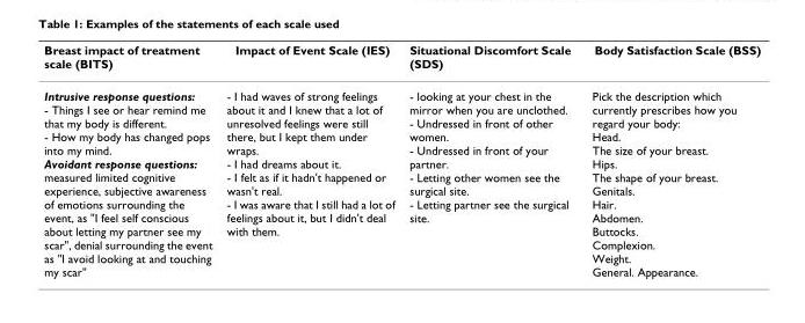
<table><thead><tr><td>Breast impact of treatment scale (BITS)</td><td>Impact of Event Scale (IES)</td><td>Situational Discomfort Scale (SDS)</td><td>Body Satisfaction Scale (BSS)</td></tr></thead><tbody><tr><td>Intrusive response questions: - Things I see or hear remind me that my body is different. - How my body has changed pops into my mind. Avoidant response questions: measured limited cognitive experience, subjective awareness of emotions surrounding the event, as &quot;I feel self conscious about letting my partner see my scar&quot;, denial surrounding the event as &quot;I avoid looking at and touching my scar&quot;</td><td>- I had waves of strong feelings about it and I knew that a lot of unresolved feelings were still there, but I kept them under wraps. - I had dreams about it. - I felt as if it hadn&#x27;t happened or wasn&#x27;t real. - I was aware that I still had a lot of feelings about it, but I didn&#x27;t deal with them.</td><td>- looking at your chest in the mirror when you are unclothed. - Undressed in front of other women. - Undressed in front of your partner. - Letting other women see the surgical site. - Letting partner see the surgical site.</td><td>Pick the description which currently prescribes how you regard your body: Head. The size of your breast. Hips. The shape of your breast. Genitals. Hair. Abdomen. Buttocks. Complexion. Weight. General. Appearance.</td></tr></tbody></table>